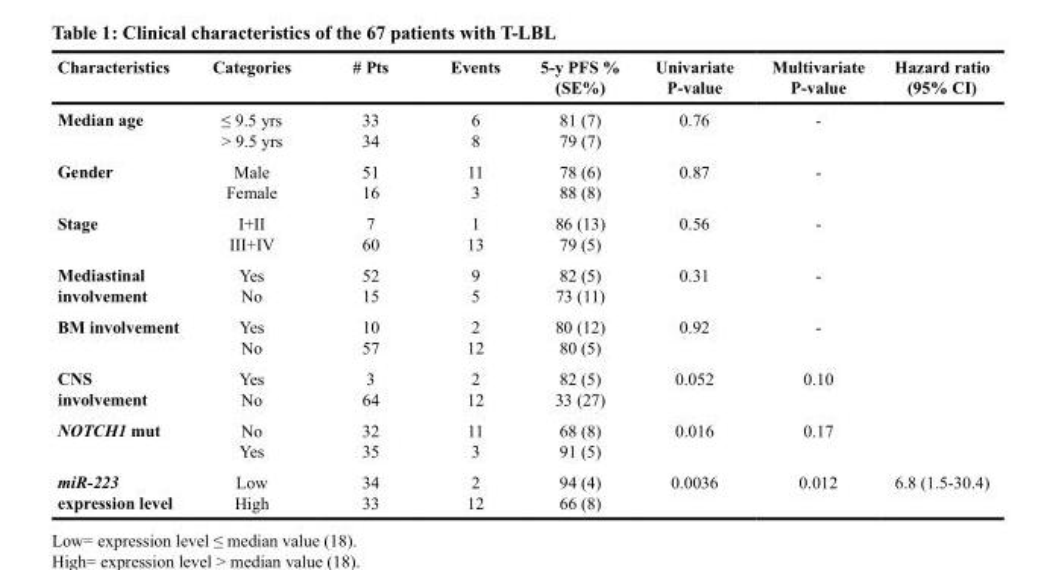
<table><thead><tr><td>Characteristics</td><td>Categories</td><td># Pts</td><td>Events</td><td>5-y PFS % (SE%)</td><td>Univariate P-value</td><td>Multivariate P-value</td><td>Hazard ratio (95% CI)</td></tr></thead><tbody><tr><td>Median age</td><td>≤ 9.5 yrs &gt; 9.5 yrs</td><td>33 34</td><td>6 8</td><td>81 (7) 79 (7)</td><td>0.76</td><td>-</td><td></td></tr><tr><td>Gender</td><td>Male Female</td><td>51 16</td><td>11 3</td><td>78 (6) 88 (8)</td><td>0.87</td><td>-</td><td></td></tr><tr><td>Stage</td><td>I+II III+IV</td><td>7 60</td><td>1 13</td><td>86 (13) 79 (5)</td><td>0.56</td><td>-</td><td></td></tr><tr><td>Mediastinal involvement</td><td>Yes No</td><td>52 15</td><td>9 5</td><td>82 (5) 73 (11)</td><td>0.31</td><td>-</td><td></td></tr><tr><td>BM involvement</td><td>Yes No</td><td>10 57</td><td>2 12</td><td>80 (12) 80 (5)</td><td>0.92</td><td>-</td><td></td></tr><tr><td>CNS involvement</td><td>Yes No</td><td>3 64</td><td>2 12</td><td>82 (5) 33 (27)</td><td>0.052</td><td>0.10</td><td></td></tr><tr><td>NOTCH1 mut</td><td>No Yes</td><td>32 35</td><td>11 3</td><td>68 (8) 91 (5)</td><td>0.016</td><td>0.17</td><td></td></tr><tr><td>miR-223 expression level</td><td>Low High</td><td>34 33</td><td>2 12</td><td>94 (4) 66 (8)</td><td>0.0036</td><td>0.012</td><td>6.8 (1.5-30.4)</td></tr></tbody></table>